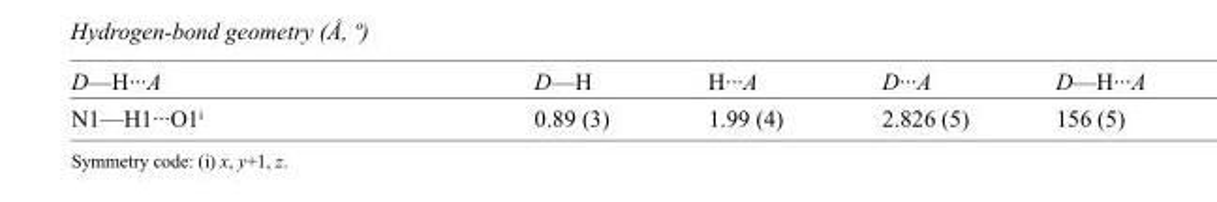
<table><tbody><tr><td>D—H···A</td><td>D—H</td><td>H···A</td><td>D···A</td><td>D—H···A</td></tr><tr><td>N1—H1···O1<sup>i</sup></td><td>0.89 (3)</td><td>1.99 (4)</td><td>2.826 (5)</td><td>156 (5)</td></tr></tbody></table>